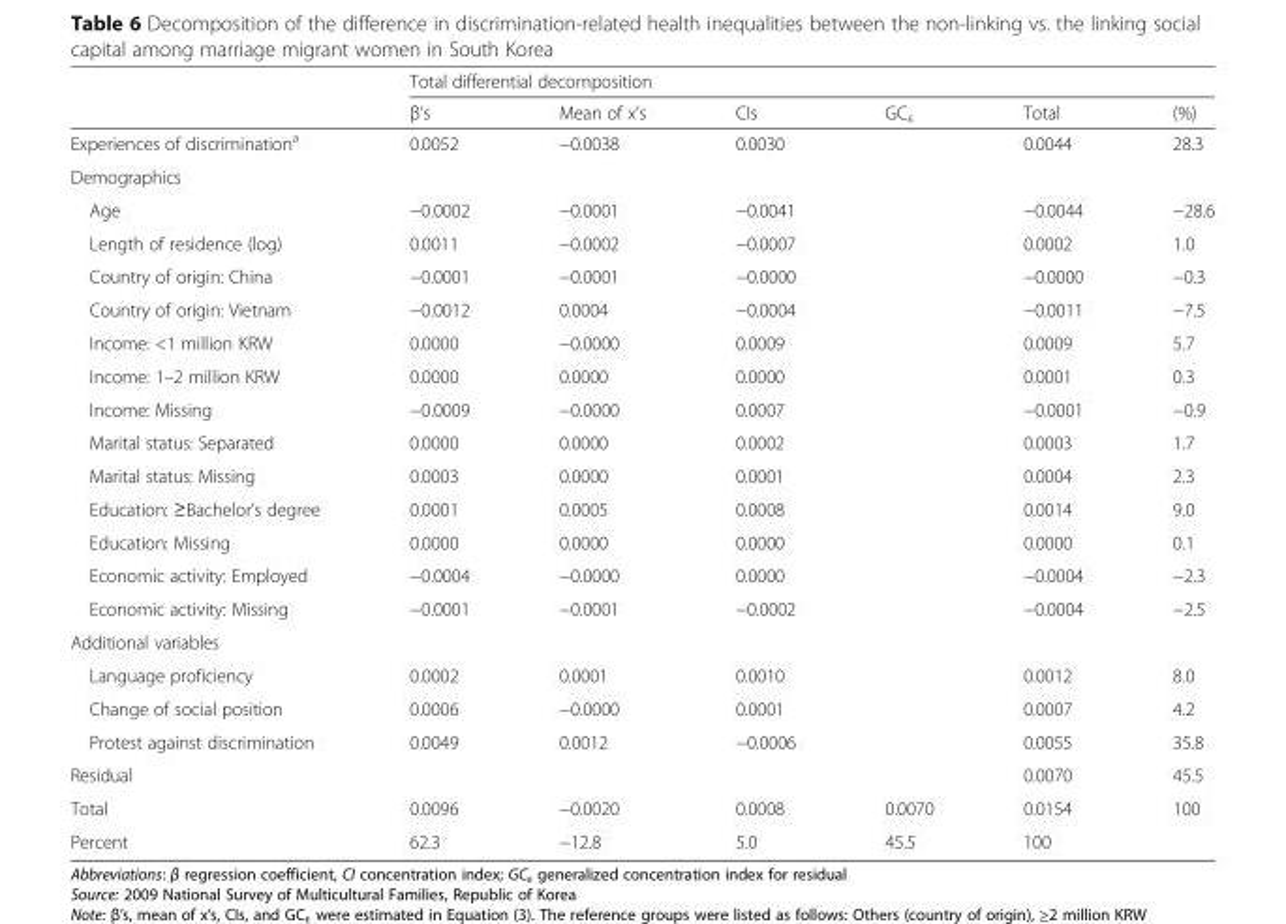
<table><thead><tr><td rowspan="2"></td><td colspan="6">Total differential decomposition</td></tr><tr><td>β’s</td><td>Mean of x’s</td><td>CIs</td><td>GC<sub>ε</sub></td><td>Total</td><td>(%)</td></tr></thead><tbody><tr><td>Experiences of discrimination<sup>a</sup></td><td>0.0052</td><td>−0.0038</td><td>0.0030</td><td></td><td>0.0044</td><td>28.3</td></tr><tr><td colspan="7">Demographics</td></tr><tr><td>Age</td><td>−0.0002</td><td>−0.0001</td><td>−0.0041</td><td></td><td>−0.0044</td><td>−28.6</td></tr><tr><td>Length of residence (log)</td><td>0.0011</td><td>−0.0002</td><td>−0.0007</td><td></td><td>0.0002</td><td>1.0</td></tr><tr><td>Country of origin: China</td><td>−0.0001</td><td>−0.0001</td><td>−0.0000</td><td></td><td>−0.0000</td><td>−0.3</td></tr><tr><td>Country of origin: Vietnam</td><td>−0.0012</td><td>0.0004</td><td>−0.0004</td><td></td><td>−0.0011</td><td>−7.5</td></tr><tr><td>Income: &lt;1 million KRW</td><td>0.0000</td><td>−0.0000</td><td>0.0009</td><td></td><td>0.0009</td><td>5.7</td></tr><tr><td>Income: 1–2 million KRW</td><td>0.0000</td><td>0.0000</td><td>0.0000</td><td></td><td>0.0001</td><td>0.3</td></tr><tr><td>Income: Missing</td><td>−0.0009</td><td>−0.0000</td><td>0.0007</td><td></td><td>−0.0001</td><td>−0.9</td></tr><tr><td>Marital status: Separated</td><td>0.0000</td><td>0.0000</td><td>0.0002</td><td></td><td>0.0003</td><td>1.7</td></tr><tr><td>Marital status: Missing</td><td>0.0003</td><td>0.0000</td><td>0.0001</td><td></td><td>0.0004</td><td>2.3</td></tr><tr><td>Education: ≥Bachelor’s degree</td><td>0.0001</td><td>0.0005</td><td>0.0008</td><td></td><td>0.0014</td><td>9.0</td></tr><tr><td>Education: Missing</td><td>0.0000</td><td>0.0000</td><td>0.0000</td><td></td><td>0.0000</td><td>0.1</td></tr><tr><td>Economic activity: Employed</td><td>−0.0004</td><td>−0.0000</td><td>0.0000</td><td></td><td>−0.0004</td><td>−2.3</td></tr><tr><td>Economic activity: Missing</td><td>−0.0001</td><td>−0.0001</td><td>−0.0002</td><td></td><td>−0.0004</td><td>−2.5</td></tr><tr><td colspan="7">Additional variables</td></tr><tr><td>Language proficiency</td><td>0.0002</td><td>0.0001</td><td>0.0010</td><td></td><td>0.0012</td><td>8.0</td></tr><tr><td>Change of social position</td><td>0.0006</td><td>−0.0000</td><td>0.0001</td><td></td><td>0.0007</td><td>4.2</td></tr><tr><td>Protest against discrimination</td><td>0.0049</td><td>0.0012</td><td>−0.0006</td><td></td><td>0.0055</td><td>35.8</td></tr><tr><td>Residual</td><td></td><td></td><td></td><td></td><td>0.0070</td><td>45.5</td></tr><tr><td>Total</td><td>0.0096</td><td>−0.0020</td><td>0.0008</td><td>0.0070</td><td>0.0154</td><td>100</td></tr><tr><td>Percent</td><td>62.3</td><td>−12.8</td><td>5.0</td><td>45.5</td><td>100</td><td></td></tr></tbody></table>